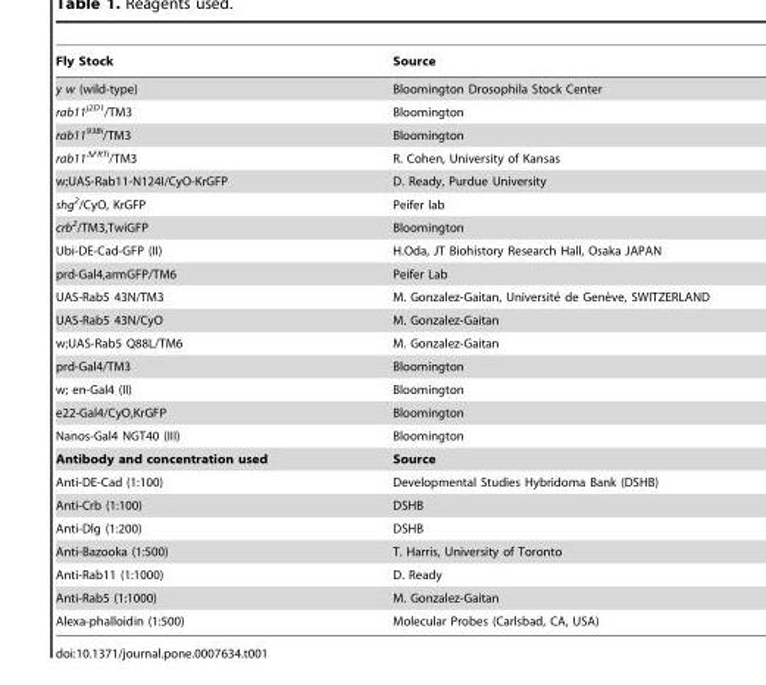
<table><thead><tr><td>Fly Stock</td><td>Source</td></tr></thead><tbody><tr><td>y w (wild-type)</td><td>Bloomington Drosophila Stock Center</td></tr><tr><td>rab11<sup>j2D1</sup>/TM3</td><td>Bloomington</td></tr><tr><td>rab11<sup>93Bi</sup>/TM3</td><td>Bloomington</td></tr><tr><td>rab11<sup>ΔFRTi</sup>/TM3</td><td>R. Cohen, University of Kansas</td></tr><tr><td>w;UAS-Rab11-N124I/CyO-KrGFP</td><td>D. Ready, Purdue University</td></tr><tr><td>shg<sup>2</sup>/CyO, KrGFP</td><td>Peifer lab</td></tr><tr><td>crb<sup>2</sup>/TM3,TwiGFP</td><td>Bloomington</td></tr><tr><td>Ubi-DE-Cad-GFP (II)</td><td>H.Oda, JT Biohistory Research Hall, Osaka JAPAN</td></tr><tr><td>prd-Gal4,armGFP/TM6</td><td>Peifer Lab</td></tr><tr><td>UAS-Rab5 43N/TM3</td><td>M. Gonzalez-Gaitan, Universite´ de Gene`ve, SWITZERLAND</td></tr><tr><td>UAS-Rab5 43N/CyO</td><td>M. Gonzalez-Gaitan</td></tr><tr><td>w;UAS-Rab5 Q88L/TM6</td><td>M. Gonzalez-Gaitan</td></tr><tr><td>prd-Gal4/TM3</td><td>Bloomington</td></tr><tr><td>w; en-Gal4 (II)</td><td>Bloomington</td></tr><tr><td>e22-Gal4/CyO,KrGFP</td><td>Bloomington</td></tr><tr><td>Nanos-Gal4 NGT40 (III)</td><td>Bloomington</td></tr><tr><td>Antibody and concentration used</td><td>Source</td></tr><tr><td>Anti-DE-Cad (1:100)</td><td>Developmental Studies Hybridoma Bank (DSHB)</td></tr><tr><td>Anti-Crb (1:100)</td><td>DSHB</td></tr><tr><td>Anti-Dlg (1:200)</td><td>DSHB</td></tr><tr><td>Anti-Bazooka (1:500)</td><td>T. Harris, University of Toronto</td></tr><tr><td>Anti-Rab11 (1:1000)</td><td>D. Ready</td></tr><tr><td>Anti-Rab5 (1:1000)</td><td>M. Gonzalez-Gaitan</td></tr><tr><td>Alexa-phalloidin (1:500)</td><td>Molecular Probes (Carlsbad, CA, USA)</td></tr></tbody></table>